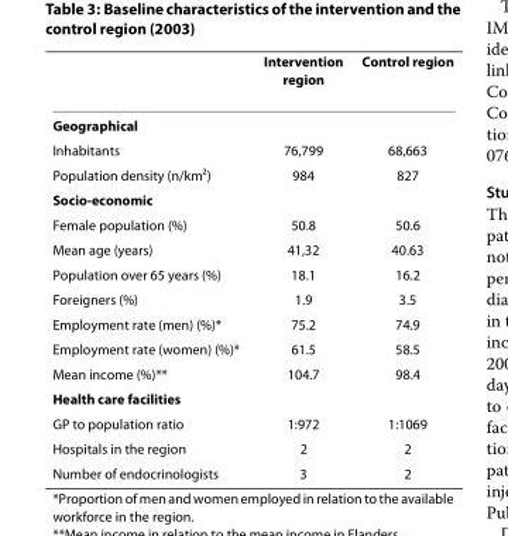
<table><thead><tr><td></td><td>Intervention region</td><td>Control region</td></tr></thead><tbody><tr><td colspan="3">Geographical</td></tr><tr><td>Inhabitants</td><td>76,799</td><td>68,663</td></tr><tr><td>Population density (n/km<sup>2</sup>)</td><td>984</td><td>827</td></tr><tr><td colspan="3">Socio-economic</td></tr><tr><td>Female population (%)</td><td>50.8</td><td>50.6</td></tr><tr><td>Mean age (years)</td><td>41,32</td><td>40.63</td></tr><tr><td>Population over 65 years (%)</td><td>18.1</td><td>16.2</td></tr><tr><td>Foreigners (%)</td><td>1.9</td><td>3.5</td></tr><tr><td>Employment rate (men) (%)*</td><td>75.2</td><td>74.9</td></tr><tr><td>Employment rate (women) (%)*</td><td>61.5</td><td>58.5</td></tr><tr><td>Mean income (%)**</td><td>104.7</td><td>98.4</td></tr><tr><td colspan="3">Health care facilities</td></tr><tr><td>GP to population ratio</td><td>1:972</td><td>1:1069</td></tr><tr><td>Hospitals in the region</td><td>2</td><td>2</td></tr><tr><td>Number of endocrinologists</td><td>3</td><td>2</td></tr></tbody></table>